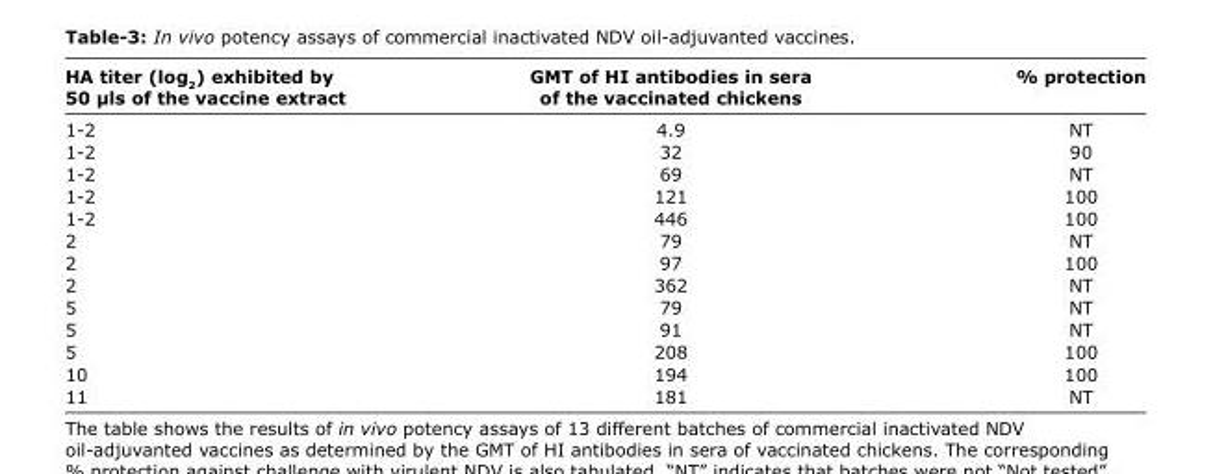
<table><thead><tr><td>HA titer (log<sub>2</sub>) exhibited by 50 μls of the vaccine extract</td><td>GMT of HI antibodies in sera of the vaccinated chickens</td><td>% protection</td></tr></thead><tbody><tr><td>1-2</td><td>4.9</td><td>NT</td></tr><tr><td>1-2</td><td>32</td><td>90</td></tr><tr><td>1-2</td><td>69</td><td>NT</td></tr><tr><td>1-2</td><td>121</td><td>100</td></tr><tr><td>1-2</td><td>446</td><td>100</td></tr><tr><td>2</td><td>79</td><td>NT</td></tr><tr><td>2</td><td>97</td><td>100</td></tr><tr><td>2</td><td>362</td><td>NT</td></tr><tr><td>5</td><td>79</td><td>NT</td></tr><tr><td>5</td><td>91</td><td>NT</td></tr><tr><td>5</td><td>208</td><td>100</td></tr><tr><td>10</td><td>194</td><td>100</td></tr><tr><td>11</td><td>181</td><td>NT</td></tr></tbody></table>